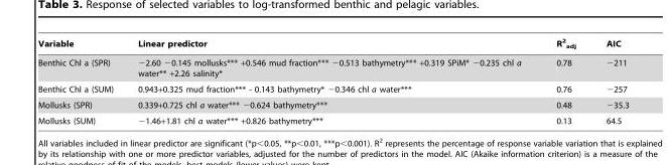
<table><thead><tr><td>Variable</td><td>Linear predictor</td><td>R<sup>2</sup> <sub>adj</sub></td><td>AIC</td></tr></thead><tbody><tr><td>Benthic Chl a (SPR)</td><td>−2.60 −0.145 mollusks*** +0.546 mud fraction*** −0.513 bathymetry*** +0.319 SPiM* −0.235 chl a water** +2.26 salinity*</td><td>0.78</td><td>−211</td></tr><tr><td>Benthic Chl a (SUM)</td><td>0.943+0.325 mud fraction*** - 0.143 bathymetry* −0.346 chl a water***</td><td>0.76</td><td>−257</td></tr><tr><td>Mollusks (SPR)</td><td>0.339+0.725 chl a water*** −0.624 bathymetry***</td><td>0.48</td><td>−35.3</td></tr><tr><td>Mollusks (SUM)</td><td>−1.46+1.81 chl a water*** +0.826 bathymetry***</td><td>0.13</td><td>64.5</td></tr></tbody></table>